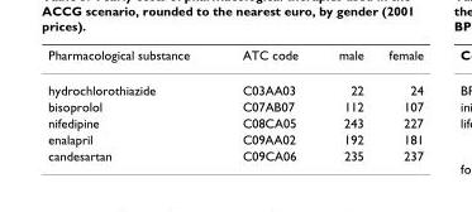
<table><thead><tr><td>Pharmacological substance</td><td>ATC code</td><td>male</td><td>female</td></tr></thead><tbody><tr><td>hydrochlorothiazide</td><td>C03AA03</td><td>22</td><td>24</td></tr><tr><td>bisoprolol</td><td>C07AB07</td><td>112</td><td>107</td></tr><tr><td>nifedipine</td><td>C08CA05</td><td>243</td><td>227</td></tr><tr><td>enalapril</td><td>C09AA02</td><td>192</td><td>181</td></tr><tr><td>candesartan</td><td>C09CA06</td><td>235</td><td>237</td></tr></tbody></table>